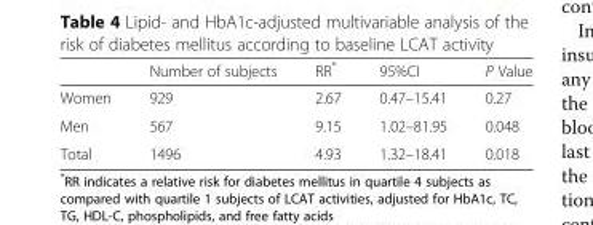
<table><thead><tr><td></td><td>Number of subjects</td><td>RR*</td><td>95%CI</td><td>P Value</td></tr></thead><tbody><tr><td>Women</td><td>929</td><td>2.67</td><td>0.47–15.41</td><td>0.27</td></tr><tr><td>Men</td><td>567</td><td>9.15</td><td>1.02–81.95</td><td>0.048</td></tr><tr><td>Total</td><td>1496</td><td>4.93</td><td>1.32–18.41</td><td>0.018</td></tr></tbody></table>